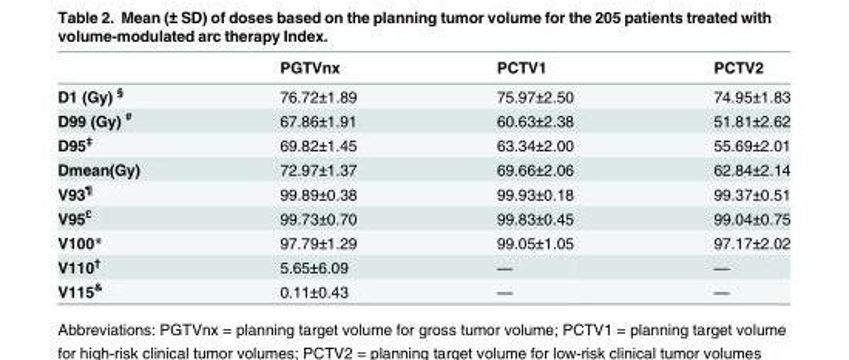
<table><thead><tr><td></td><td>PGTVnx</td><td>PCTV1</td><td>PCTV2</td></tr></thead><tbody><tr><td>D1 (Gy) <sup>§</sup></td><td>76.72±1.89</td><td>75.97±2.50</td><td>74.95±1.83</td></tr><tr><td>D99 (Gy) <sup>#</sup></td><td>67.86±1.91</td><td>60.63±2.38</td><td>51.81±2.62</td></tr><tr><td>D95<sup>‡</sup></td><td>69.82±1.45</td><td>63.34±2.00</td><td>55.69±2.01</td></tr><tr><td>Dmean(Gy)</td><td>72.97±1.37</td><td>69.66±2.06</td><td>62.84±2.14</td></tr><tr><td>V93<sup>¶</sup></td><td>99.89±0.38</td><td>99.93±0.18</td><td>99.37±0.51</td></tr><tr><td>V95<sup>£</sup></td><td>99.73±0.70</td><td>99.83±0.45</td><td>99.04±0.75</td></tr><tr><td>V100*</td><td>97.79±1.29</td><td>99.05±1.05</td><td>97.17±2.02</td></tr><tr><td>V110<sup>†</sup></td><td>5.65±6.09</td><td>—</td><td>—</td></tr><tr><td>V115<sup>&amp;</sup></td><td>0.11±0.43</td><td>—</td><td>—</td></tr></tbody></table>